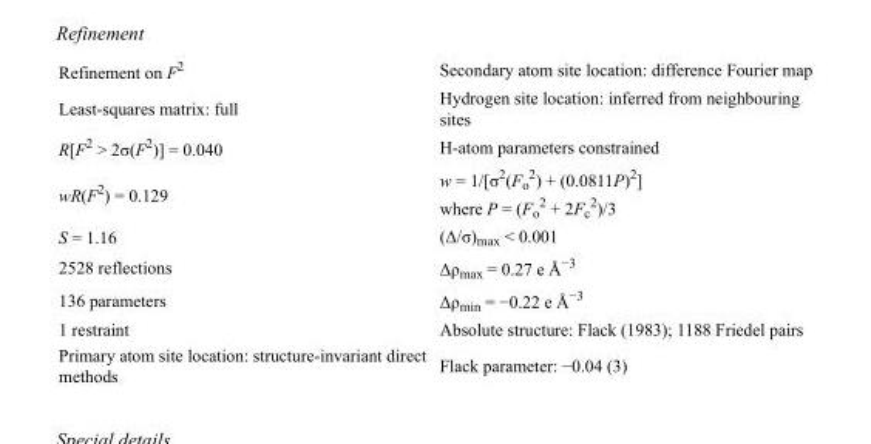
<table><tbody><tr><td>Refinement on F<sup>2</sup></td><td>Secondary atom site location: difference Fourier map</td></tr><tr><td>Least-squares matrix: full</td><td>Hydrogen site location: inferred from neighbouring sites</td></tr><tr><td>R[F<sup>2</sup> &gt; 2σ(F<sup>2</sup>)] = 0.040</td><td>H-atom parameters constrained</td></tr><tr><td>wR(F<sup>2</sup>) = 0.129</td><td>w = 1/[σ<sup>2</sup>(F<sub>o</sub> <sup>2</sup>) + (0.0811P)<sup>2</sup>] where P = (F<sub>o</sub> <sup>2</sup> + 2F<sub>c</sub> <sup>2</sup>)/3</td></tr><tr><td>S = 1.16</td><td>(Δ/σ)<sub>max</sub> &lt; 0.001</td></tr><tr><td>2528 reflections</td><td>Δρ<sub>max</sub> = 0.27 e Å<sup>−3</sup></td></tr><tr><td>136 parameters</td><td>Δρ<sub>min</sub> = −0.22 e Å<sup>−3</sup></td></tr><tr><td>1 restraint</td><td>Absolute structure: Flack (1983); 1188 Friedel pairs</td></tr><tr><td>Primary atom site location: structure-invariant direct methods</td><td>Flack parameter: −0.04 (3)</td></tr></tbody></table>